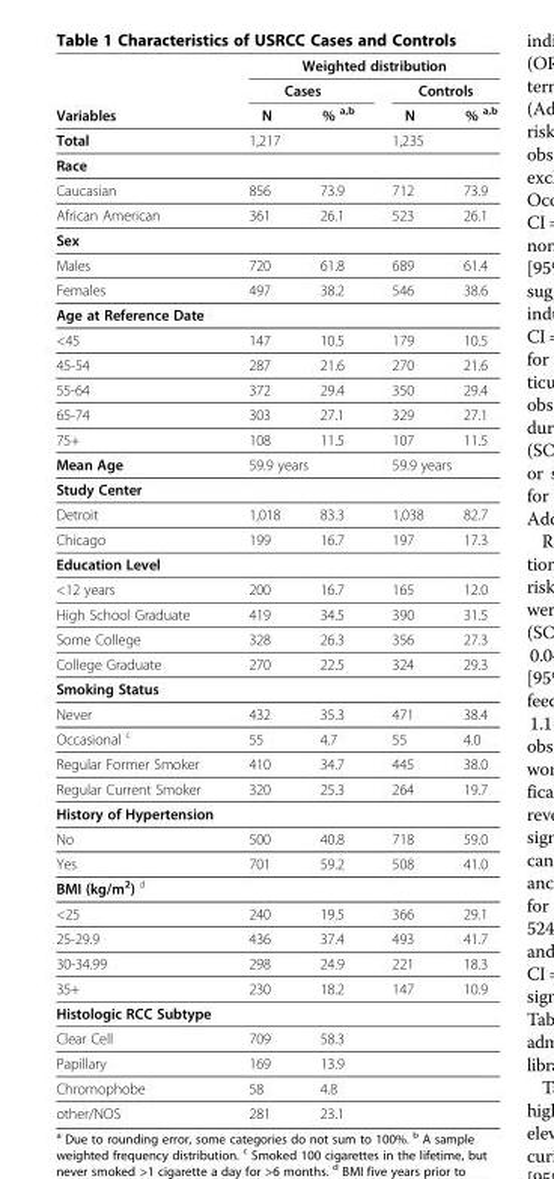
<table><thead><tr><td rowspan="3">Variables</td><td colspan="4">Weighted distribution</td></tr><tr><td colspan="2">Cases</td><td colspan="2">Controls</td></tr><tr><td>N</td><td>% <sup>a,b</sup></td><td>N</td><td>% <sup>a,b</sup></td></tr></thead><tbody><tr><td>Total</td><td>1,217</td><td></td><td>1,235</td><td></td></tr><tr><td colspan="5">Race</td></tr><tr><td>Caucasian</td><td>856</td><td>73.9</td><td>712</td><td>73.9</td></tr><tr><td>African American</td><td>361</td><td>26.1</td><td>523</td><td>26.1</td></tr><tr><td colspan="5">Sex</td></tr><tr><td>Males</td><td>720</td><td>61.8</td><td>689</td><td>61.4</td></tr><tr><td>Females</td><td>497</td><td>38.2</td><td>546</td><td>38.6</td></tr><tr><td colspan="5">Age at Reference Date</td></tr><tr><td>&lt;45</td><td>147</td><td>10.5</td><td>179</td><td>10.5</td></tr><tr><td>45-54</td><td>287</td><td>21.6</td><td>270</td><td>21.6</td></tr><tr><td>55-64</td><td>372</td><td>29.4</td><td>350</td><td>29.4</td></tr><tr><td>65-74</td><td>303</td><td>27.1</td><td>329</td><td>27.1</td></tr><tr><td>75+</td><td>108</td><td>11.5</td><td>107</td><td>11.5</td></tr><tr><td>Mean Age</td><td colspan="2">59.9 years</td><td colspan="2">59.9 years</td></tr><tr><td colspan="5">Study Center</td></tr><tr><td>Detroit</td><td>1,018</td><td>83.3</td><td>1,038</td><td>82.7</td></tr><tr><td>Chicago</td><td>199</td><td>16.7</td><td>197</td><td>17.3</td></tr><tr><td colspan="5">Education Level</td></tr><tr><td>&lt;12 years</td><td>200</td><td>16.7</td><td>165</td><td>12.0</td></tr><tr><td>High School Graduate</td><td>419</td><td>34.5</td><td>390</td><td>31.5</td></tr><tr><td>Some College</td><td>328</td><td>26.3</td><td>356</td><td>27.3</td></tr><tr><td>College Graduate</td><td>270</td><td>22.5</td><td>324</td><td>29.3</td></tr><tr><td colspan="5">Smoking Status</td></tr><tr><td>Never</td><td>432</td><td>35.3</td><td>471</td><td>38.4</td></tr><tr><td>Occasional <sup>c</sup></td><td>55</td><td>4.7</td><td>55</td><td>4.0</td></tr><tr><td>Regular Former Smoker</td><td>410</td><td>34.7</td><td>445</td><td>38.0</td></tr><tr><td>Regular Current Smoker</td><td>320</td><td>25.3</td><td>264</td><td>19.7</td></tr><tr><td colspan="5">History of Hypertension</td></tr><tr><td>No</td><td>500</td><td>40.8</td><td>718</td><td>59.0</td></tr><tr><td>Yes</td><td>701</td><td>59.2</td><td>508</td><td>41.0</td></tr><tr><td colspan="5">BMI (kg/m<sup>2</sup>) <sup>d</sup></td></tr><tr><td>&lt;25</td><td>240</td><td>19.5</td><td>366</td><td>29.1</td></tr><tr><td>25-29.9</td><td>436</td><td>37.4</td><td>493</td><td>41.7</td></tr><tr><td>30-34.99</td><td>298</td><td>24.9</td><td>221</td><td>18.3</td></tr><tr><td>35+</td><td>230</td><td>18.2</td><td>147</td><td>10.9</td></tr><tr><td colspan="5">Histologic RCC Subtype</td></tr><tr><td>Clear Cell</td><td>709</td><td>58.3</td><td></td><td></td></tr><tr><td>Papillary</td><td>169</td><td>13.9</td><td></td><td></td></tr><tr><td>Chromophobe</td><td>58</td><td>4.8</td><td></td><td></td></tr><tr><td>other/NOS</td><td>281</td><td>23.1</td><td></td><td></td></tr></tbody></table>